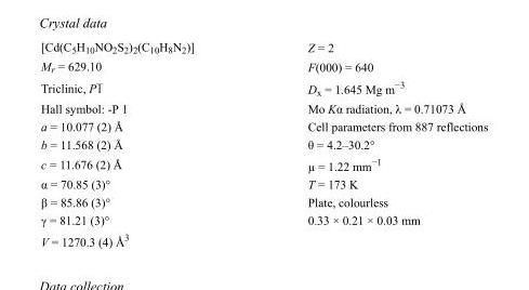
<table><tbody><tr><td>[Cd(C<sub>5</sub>H<sub>10</sub>NO<sub>2</sub>S<sub>2</sub>)<sub>2</sub>(C<sub>10</sub>H<sub>8</sub>N<sub>2</sub>)]</td><td>Z = 2</td></tr><tr><td>M<sub>r</sub> = 629.10</td><td>F(000) = 640</td></tr><tr><td>Triclinic, P1</td><td>D<sub>x</sub> = 1.645 Mg m<sup>−3</sup></td></tr><tr><td>Hall symbol: -P 1</td><td>Mo Kα radiation, λ = 0.71073 Å</td></tr><tr><td>a = 10.077 (2) Å</td><td>Cell parameters from 887 reflections</td></tr><tr><td>b = 11.568 (2) Å</td><td>θ = 4.2–30.2°</td></tr><tr><td>c = 11.676 (2) Å</td><td>µ = 1.22 mm<sup>−1</sup></td></tr><tr><td>α = 70.85 (3)°</td><td>T = 173 K</td></tr><tr><td>β = 85.86 (3)°</td><td>Plate, colourless</td></tr><tr><td>γ = 81.21 (3)°</td><td>0.33 × 0.21 × 0.03 mm</td></tr><tr><td>V = 1270.3 (4) Å<sup>3</sup></td><td></td></tr></tbody></table>